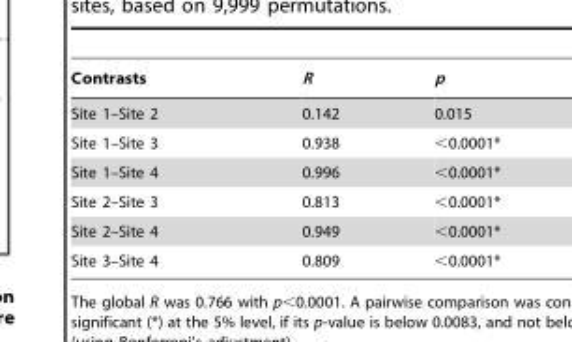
<table><thead><tr><td>Contrasts</td><td>R</td><td>p</td></tr></thead><tbody><tr><td>Site 1–Site 2</td><td>0.142</td><td>0.015</td></tr><tr><td>Site 1–Site 3</td><td>0.938</td><td>&lt;0.0001*</td></tr><tr><td>Site 1–Site 4</td><td>0.996</td><td>&lt;0.0001*</td></tr><tr><td>Site 2–Site 3</td><td>0.813</td><td>&lt;0.0001*</td></tr><tr><td>Site 2–Site 4</td><td>0.949</td><td>&lt;0.0001*</td></tr><tr><td>Site 3–Site 4</td><td>0.809</td><td>&lt;0.0001*</td></tr></tbody></table>